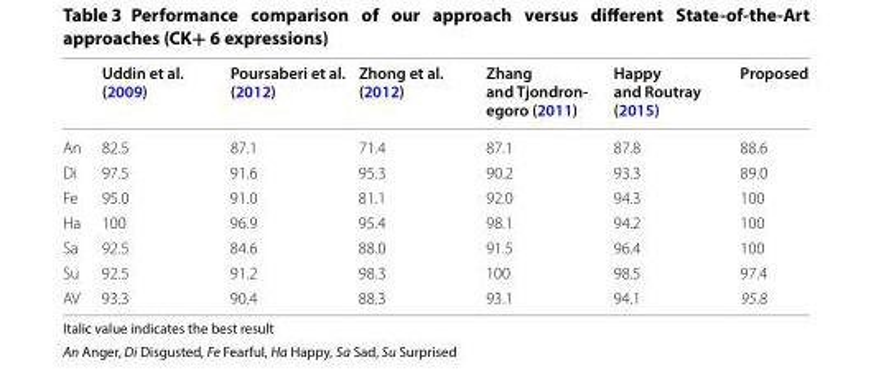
<table><thead><tr><td></td><td>Uddin et al. (2009)</td><td>Poursaberi et al. (2012)</td><td>Zhong et al. (2012)</td><td>Zhang and Tjondron- egoro (2011)</td><td>Happy and Routray (2015)</td><td>Proposed</td></tr></thead><tbody><tr><td>An</td><td>82.5</td><td>87.1</td><td>71.4</td><td>87.1</td><td>87.8</td><td>88.6</td></tr><tr><td>Di</td><td>97.5</td><td>91.6</td><td>95.3</td><td>90.2</td><td>93.3</td><td>89.0</td></tr><tr><td>Fe</td><td>95.0</td><td>91.0</td><td>81.1</td><td>92.0</td><td>94.3</td><td>100</td></tr><tr><td>Ha</td><td>100</td><td>96.9</td><td>95.4</td><td>98.1</td><td>94.2</td><td>100</td></tr><tr><td>Sa</td><td>92.5</td><td>84.6</td><td>88.0</td><td>91.5</td><td>96.4</td><td>100</td></tr><tr><td>Su</td><td>92.5</td><td>91.2</td><td>98.3</td><td>100</td><td>98.5</td><td>97.4</td></tr><tr><td>AV</td><td>93.3</td><td>90.4</td><td>88.3</td><td>93.1</td><td>94.1</td><td>95.8</td></tr></tbody></table>